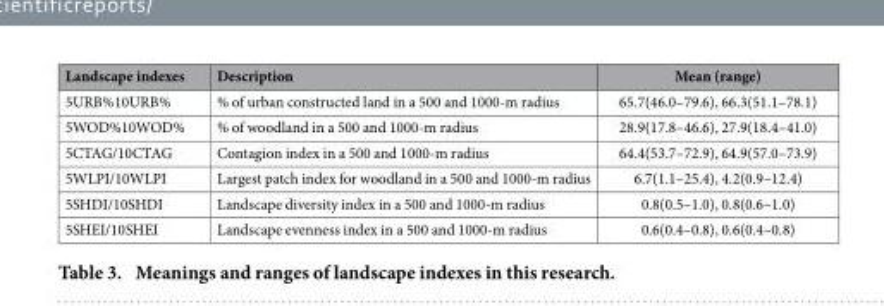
<table><thead><tr><td>Landscape indexes</td><td>Description</td><td>Mean (range)</td></tr></thead><tbody><tr><td>5URB%10URB%</td><td>% of urban constructed land in a 500 and 1000-m radius</td><td>65.7(46.0–79.6), 66.3(51.1–78.1)</td></tr><tr><td>5WOD%10WOD%</td><td>% of woodland in a 500 and 1000-m radius</td><td>28.9(17.8–46.6), 27.9(18.4–41.0)</td></tr><tr><td>5CTAG/10CTAG</td><td>Contagion index in a 500 and 1000-m radius</td><td>64.4(53.7–72.9), 64.9(57.0–73.9)</td></tr><tr><td>5WLPI/10WLPI</td><td>Largest patch index for woodland in a 500 and 1000-m radius</td><td>6.7(1.1–25.4), 4.2(0.9–12.4)</td></tr><tr><td>5SHDI/10SHDI</td><td>Landscape diversity index in a 500 and 1000-m radius</td><td>0.8(0.5–1.0), 0.8(0.6–1.0)</td></tr><tr><td>5SHEI/10SHEI</td><td>Landscape evenness index in a 500 and 1000-m radius</td><td>0.6(0.4–0.8), 0.6(0.4–0.8)</td></tr></tbody></table>